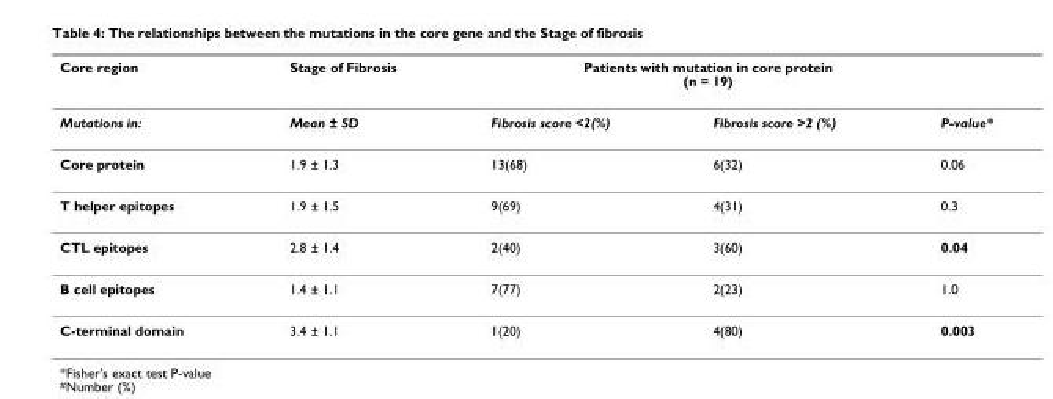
<table><thead><tr><td rowspan="2">Core region Mutations in:</td><td rowspan="2">Stage of Fibrosis Mean ± SD</td><td colspan="2">Patients with mutation in core protein (n = 19)</td><td rowspan="2">P-value*</td></tr><tr><td>Fibrosis score &lt;2(%)</td><td>Fibrosis score &gt;2 (%)</td></tr></thead><tbody><tr><td>Core protein</td><td>1.9 ± 1.3</td><td>13(68)</td><td>6(32)</td><td>0.06</td></tr><tr><td>T helper epitopes</td><td>1.9 ± 1.5</td><td>9(69)</td><td>4(31)</td><td>0.3</td></tr><tr><td>CTL epitopes</td><td>2.8 ± 1.4</td><td>2(40)</td><td>3(60)</td><td>0.04</td></tr><tr><td>B cell epitopes</td><td>1.4 ± 1.1</td><td>7(77)</td><td>2(23)</td><td>1.0</td></tr><tr><td>C-terminal domain</td><td>3.4 ± 1.1</td><td>1(20)</td><td>4(80)</td><td>0.003</td></tr></tbody></table>